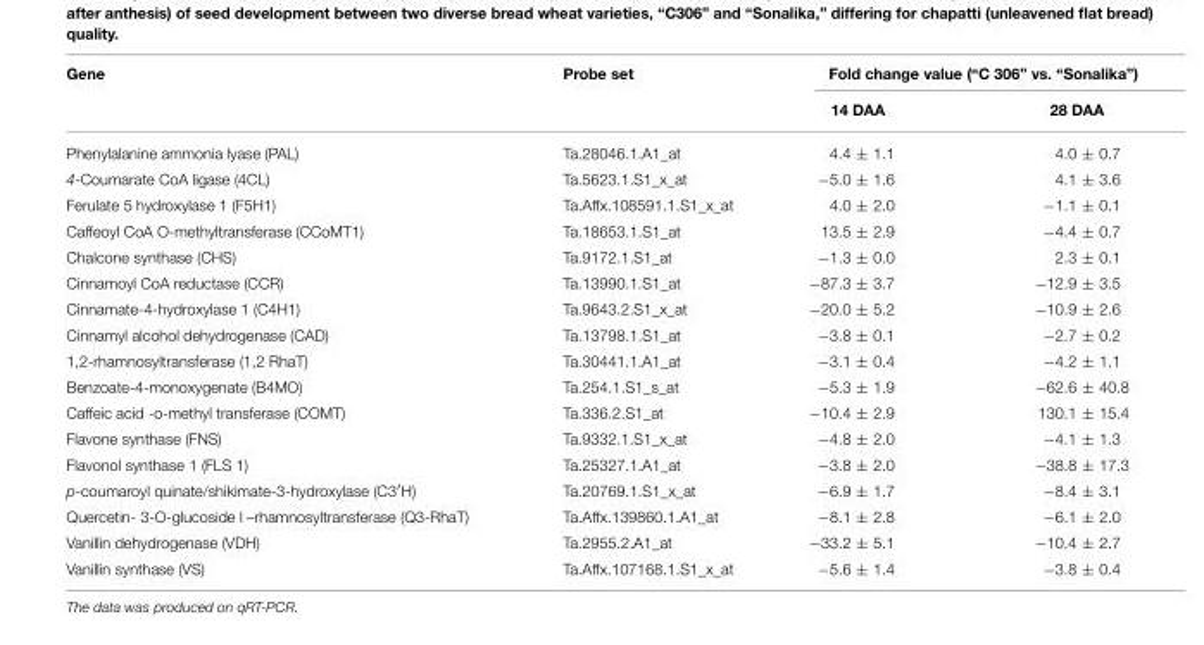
<table><thead><tr><td rowspan="2">Gene</td><td rowspan="2">Probe set</td><td colspan="2">Fold change value (“C 306” vs. “Sonalika”)</td></tr><tr><td>14 DAA</td><td>28 DAA</td></tr></thead><tbody><tr><td>Phenylalanine ammonia lyase (PAL)</td><td>Ta.28046.1.A1_at</td><td>4.4 ± 1.1</td><td>4.0 ± 0.7</td></tr><tr><td>4-Coumarate CoA ligase (4CL)</td><td>Ta.5623.1.S1_x_at</td><td>−5.0 ± 1.6</td><td>4.1 ± 3.6</td></tr><tr><td>Ferulate 5 hydroxylase 1 (F5H1)</td><td>Ta.Affx.108591.1.S1_x_at</td><td>4.0 ± 2.0</td><td>−1.1 ± 0.1</td></tr><tr><td>Caffeoyl CoA O-methyltransferase (CCoMT1)</td><td>Ta.18653.1.S1_at</td><td>13.5 ± 2.9</td><td>−4.4 ± 0.7</td></tr><tr><td>Chalcone synthase (CHS)</td><td>Ta.9172.1.S1_at</td><td>−1.3 ± 0.0</td><td>2.3 ± 0.1</td></tr><tr><td>Cinnamoyl CoA reductase (CCR)</td><td>Ta.13990.1.S1_at</td><td>−87.3 ± 3.7</td><td>−12.9 ± 3.5</td></tr><tr><td>Cinnamate-4-hydroxylase 1 (C4H1)</td><td>Ta.9643.2.S1_x_at</td><td>−20.0 ± 5.2</td><td>−10.9 ± 2.6</td></tr><tr><td>Cinnamyl alcohol dehydrogenase (CAD)</td><td>Ta.13798.1.S1_at</td><td>−3.8 ± 0.1</td><td>−2.7 ± 0.2</td></tr><tr><td>1,2-rhamnosyltransferase (1,2 RhaT)</td><td>Ta.30441.1.A1_at</td><td>−3.1 ± 0.4</td><td>−4.2 ± 1.1</td></tr><tr><td>Benzoate-4-monoxygenate (B4MO)</td><td>Ta.254.1.S1_s_at</td><td>−5.3 ± 1.9</td><td>−62.6 ± 40.8</td></tr><tr><td>Caffeic acid -o-methyl transferase (COMT)</td><td>Ta.336.2.S1_at</td><td>−10.4 ± 2.9</td><td>130.1 ± 15.4</td></tr><tr><td>Flavone synthase (FNS)</td><td>Ta.9332.1.S1_x_at</td><td>−4.8 ± 2.0</td><td>−4.1 ± 1.3</td></tr><tr><td>Flavonol synthase 1 (FLS 1)</td><td>Ta.25327.1.A1_at</td><td>−3.8 ± 2.0</td><td>−38.8 ± 17.3</td></tr><tr><td>p-coumaroyl quinate/shikimate-3-hydroxylase (C3′H)</td><td>Ta.20769.1.S1_x_at</td><td>−6.9 ± 1.7</td><td>−8.4 ± 3.1</td></tr><tr><td>Quercetin- 3-O-glucoside l –rhamnosyltransferase (Q3-RhaT)</td><td>Ta.Affx.139860.1.A1_at</td><td>−8.1 ± 2.8</td><td>−6.1 ± 2.0</td></tr><tr><td>Vanillin dehydrogenase (VDH)</td><td>Ta.2955.2.A1_at</td><td>−33.2 ± 5.1</td><td>−10.4 ± 2.7</td></tr><tr><td>Vanillin synthase (VS)</td><td>Ta.Affx.107168.1.S1_x_at</td><td>−5.6 ± 1.4</td><td>−3.8 ± 0.4</td></tr></tbody></table>